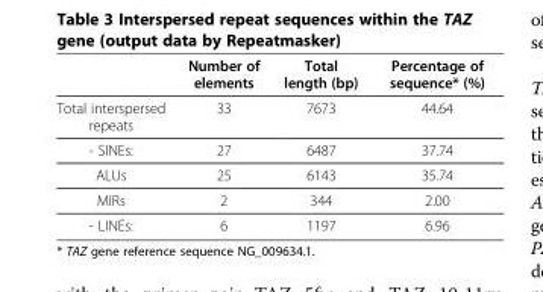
<table><thead><tr><td></td><td>Number of elements</td><td>Total length (bp)</td><td>Percentage of sequence* (%)</td></tr></thead><tbody><tr><td>Total interspersed repeats</td><td>33</td><td>7673</td><td>44.64</td></tr><tr><td>- SINEs:</td><td>27</td><td>6487</td><td>37.74</td></tr><tr><td>ALUs</td><td>25</td><td>6143</td><td>35.74</td></tr><tr><td>MIRs</td><td>2</td><td>344</td><td>2.00</td></tr><tr><td>- LINEs:</td><td>6</td><td>1197</td><td>6.96</td></tr></tbody></table>